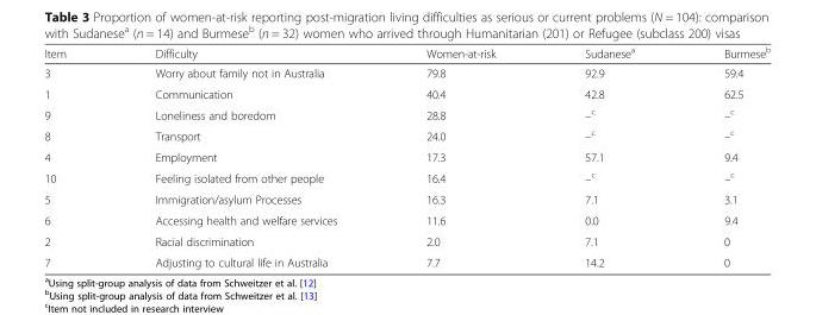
<table><thead><tr><td>Item</td><td>Difficulty</td><td>Women-at-risk</td><td>Sudanese<sup>a</sup></td><td>Burmese<sup>b</sup></td></tr></thead><tbody><tr><td>3</td><td>Worry about family not in Australia</td><td>79.8</td><td>92.9</td><td>59.4</td></tr><tr><td>1</td><td>Communication</td><td>40.4</td><td>42.8</td><td>62.5</td></tr><tr><td>9</td><td>Loneliness and boredom</td><td>28.8</td><td>–<sup>c</sup></td><td>–<sup>c</sup></td></tr><tr><td>8</td><td>Transport</td><td>24.0</td><td>–<sup>c</sup></td><td>–<sup>c</sup></td></tr><tr><td>4</td><td>Employment</td><td>17.3</td><td>57.1</td><td>9.4</td></tr><tr><td>10</td><td>Feeling isolated from other people</td><td>16.4</td><td>–<sup>c</sup></td><td>–<sup>c</sup></td></tr><tr><td>5</td><td>Immigration/asylum Processes</td><td>16.3</td><td>7.1</td><td>3.1</td></tr><tr><td>6</td><td>Accessing health and welfare services</td><td>11.6</td><td>0.0</td><td>9.4</td></tr><tr><td>2</td><td>Racial discrimination</td><td>2.0</td><td>7.1</td><td>0</td></tr><tr><td>7</td><td>Adjusting to cultural life in Australia</td><td>7.7</td><td>14.2</td><td>0</td></tr></tbody></table>